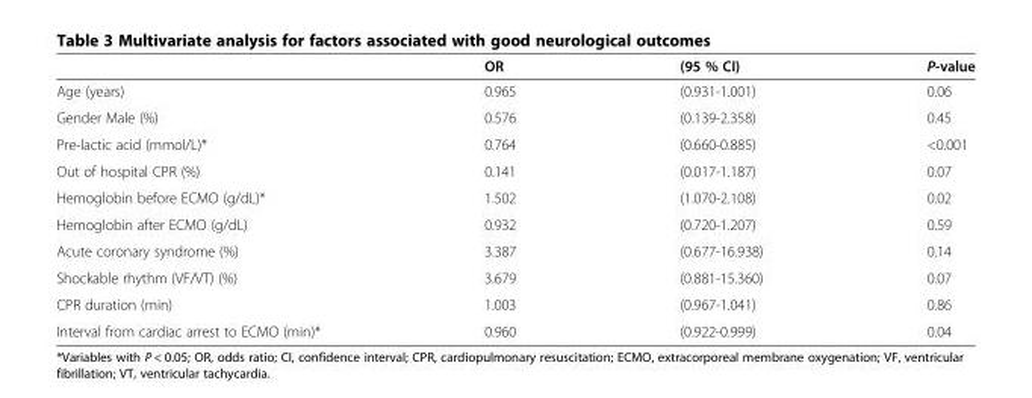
<table><thead><tr><td></td><td>OR</td><td>(95 % CI)</td><td>P-value</td></tr></thead><tbody><tr><td>Age (years)</td><td>0.965</td><td>(0.931-1.001)</td><td>0.06</td></tr><tr><td>Gender Male (%)</td><td>0.576</td><td>(0.139-2.358)</td><td>0.45</td></tr><tr><td>Pre-lactic acid (mmol/L)*</td><td>0.764</td><td>(0.660-0.885)</td><td>&lt;0.001</td></tr><tr><td>Out of hospital CPR (%)</td><td>0.141</td><td>(0.017-1.187)</td><td>0.07</td></tr><tr><td>Hemoglobin before ECMO (g/dL)*</td><td>1.502</td><td>(1.070-2.108)</td><td>0.02</td></tr><tr><td>Hemoglobin after ECMO (g/dL)</td><td>0.932</td><td>(0.720-1.207)</td><td>0.59</td></tr><tr><td>Acute coronary syndrome (%)</td><td>3.387</td><td>(0.677-16.938)</td><td>0.14</td></tr><tr><td>Shockable rhythm (VF/VT) (%)</td><td>3.679</td><td>(0.881-15.360)</td><td>0.07</td></tr><tr><td>CPR duration (min)</td><td>1.003</td><td>(0.967-1.041)</td><td>0.86</td></tr><tr><td>Interval from cardiac arrest to ECMO (min)*</td><td>0.960</td><td>(0.922-0.999)</td><td>0.04</td></tr></tbody></table>